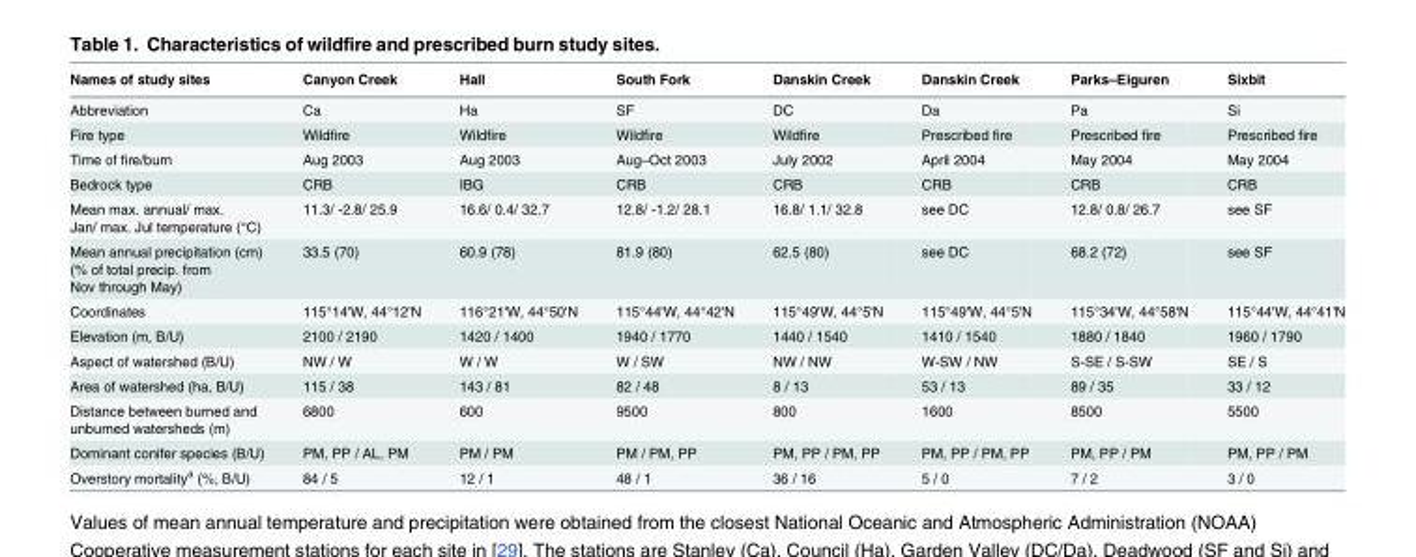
<table><thead><tr><td>Names of study sites</td><td>Canyon Creek</td><td>Hall</td><td>South Fork</td><td>Danskin Creek</td><td>Danskin Creek</td><td>Parks–Eiguren</td><td>Sixbit</td></tr></thead><tbody><tr><td>Abbreviation</td><td>Ca</td><td>Ha</td><td>SF</td><td>DC</td><td>Da</td><td>Pa</td><td>Si</td></tr><tr><td>Fire type</td><td>Wildfire</td><td>Wildfire</td><td>Wildfire</td><td>Wildfire</td><td>Prescribed fire</td><td>Prescribed fire</td><td>Prescribed fire</td></tr><tr><td>Time of fire/burn</td><td>Aug 2003</td><td>Aug 2003</td><td>Aug–Oct 2003</td><td>July 2002</td><td>April 2004</td><td>May 2004</td><td>May 2004</td></tr><tr><td>Bedrock type</td><td>CRB</td><td>IBG</td><td>CRB</td><td>CRB</td><td>CRB</td><td>CRB</td><td>CRB</td></tr><tr><td>Mean max. annual/ max. Jan/ max. Jul temperature (°C)</td><td>11.3/ -2.8/ 25.9</td><td>16.6/ 0.4/ 32.7</td><td>12.8/ -1.2/ 28.1</td><td>16.8/ 1.1/ 32.8</td><td>see DC</td><td>12.8/ 0.8/ 26.7</td><td>see SF</td></tr><tr><td>Mean annual precipitation (cm) (% of total precip. from Nov through May)</td><td>33.5 (70)</td><td>60.9 (78)</td><td>81.9 (80)</td><td>62.5 (80)</td><td>see DC</td><td>68.2 (72)</td><td>see SF</td></tr><tr><td>Coordinates</td><td>115°14&#x27;W, 44°12&#x27;N</td><td>116°21&#x27;W, 44°50&#x27;N</td><td>115°44&#x27;W, 44°42&#x27;N</td><td>115°49&#x27;W, 44°5&#x27;N</td><td>115°49&#x27;W, 44°5&#x27;N</td><td>115°34&#x27;W, 44°58&#x27;N</td><td>115°44&#x27;W, 44°41&#x27;N</td></tr><tr><td>Elevation (m, B/U)</td><td>2100 / 2190</td><td>1420 / 1400</td><td>1940 / 1770</td><td>1440 / 1540</td><td>1410 / 1540</td><td>1880 / 1840</td><td>1960 / 1790</td></tr><tr><td>Aspect of watershed (B/U)</td><td>NW / W</td><td>W / W</td><td>W / SW</td><td>NW / NW</td><td>W-SW / NW</td><td>S-SE / S-SW</td><td>SE / S</td></tr><tr><td>Area of watershed (ha, B/U)</td><td>115 / 38</td><td>143 / 81</td><td>82 / 48</td><td>8 / 13</td><td>53 / 13</td><td>89 / 35</td><td>33 / 12</td></tr><tr><td>Distance between burned and unburned watersheds (m)</td><td>6800</td><td>600</td><td>9500</td><td>800</td><td>1600</td><td>8500</td><td>5500</td></tr><tr><td>Dominant conifer species (B/U)</td><td>PM, PP / AL, PM</td><td>PM / PM</td><td>PM / PM, PP</td><td>PM, PP / PM, PP</td><td>PM, PP / PM, PP</td><td>PM, PP / PM</td><td>PM, PP / PM</td></tr><tr><td>Overstory mortality<sup>a</sup> (%, B/U)</td><td>84 / 5</td><td>12 / 1</td><td>48 / 1</td><td>36 / 16</td><td>5 / 0</td><td>7 / 2</td><td>3 / 0</td></tr></tbody></table>